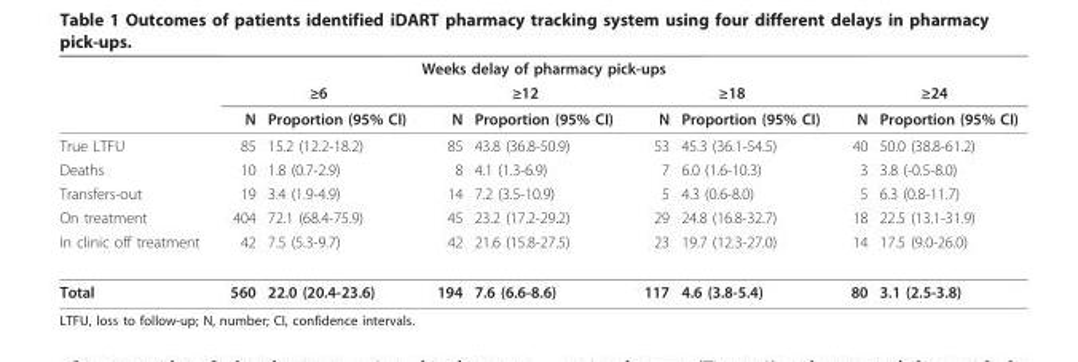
<table><thead><tr><td colspan="9">Weeks delay of pharmacy pick-ups</td></tr><tr><td rowspan="2"></td><td colspan="2">≥6</td><td colspan="2">≥12</td><td colspan="2">≥18</td><td colspan="2">≥24</td></tr><tr><td>N</td><td>Proportion (95% CI)</td><td>N</td><td>Proportion (95% CI)</td><td>N</td><td>Proportion (95% CI)</td><td>N</td><td>Proportion (95% CI)</td></tr></thead><tbody><tr><td>True LTFU</td><td>85</td><td>15.2 (12.2-18.2)</td><td>85</td><td>43.8 (36.8-50.9)</td><td>53</td><td>45.3 (36.1-54.5)</td><td>40</td><td>50.0 (38.8-61.2)</td></tr><tr><td>Deaths</td><td>10</td><td>1.8 (0.7-2.9)</td><td>8</td><td>4.1 (1.3-6.9)</td><td>7</td><td>6.0 (1.6-10.3)</td><td>3</td><td>3.8 (-0.5-8.0)</td></tr><tr><td>Transfers-out</td><td>19</td><td>3.4 (1.9-4.9)</td><td>14</td><td>7.2 (3.5-10.9)</td><td>5</td><td>4.3 (0.6-8.0)</td><td>5</td><td>6.3 (0.8-11.7)</td></tr><tr><td>On treatment</td><td>404</td><td>72.1 (68.4-75.9)</td><td>45</td><td>23.2 (17.2-29.2)</td><td>29</td><td>24.8 (16.8-32.7)</td><td>18</td><td>22.5 (13.1-31.9)</td></tr><tr><td>In clinic off treatment</td><td>42</td><td>7.5 (5.3-9.7)</td><td>42</td><td>21.6 (15.8-27.5)</td><td>23</td><td>19.7 (12.3-27.0)</td><td>14</td><td>17.5 (9.0-26.0)</td></tr><tr><td>Total</td><td>560</td><td>22.0 (20.4-23.6)</td><td>194</td><td>7.6 (6.6-8.6)</td><td>117</td><td>4.6 (3.8-5.4)</td><td>80</td><td>3.1 (2.5-3.8)</td></tr></tbody></table>